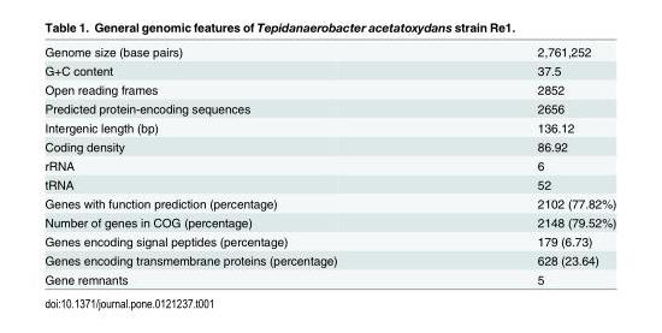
<table><tbody><tr><td>Genome size (base pairs)</td><td>2,761,252</td></tr><tr><td>G+C content</td><td>37.5</td></tr><tr><td>Open reading frames</td><td>2852</td></tr><tr><td>Predicted protein-encoding sequences</td><td>2656</td></tr><tr><td>Intergenic length (bp)</td><td>136.12</td></tr><tr><td>Coding density</td><td>86.92</td></tr><tr><td>rRNA</td><td>6</td></tr><tr><td>tRNA</td><td>52</td></tr><tr><td>Genes with function prediction (percentage)</td><td>2102 (77.82%)</td></tr><tr><td>Number of genes in COG (percentage)</td><td>2148 (79.52%)</td></tr><tr><td>Genes encoding signal peptides (percentage)</td><td>179 (6.73)</td></tr><tr><td>Genes encoding transmembrane proteins (percentage)</td><td>628 (23.64)</td></tr><tr><td>Gene remnants</td><td>5</td></tr></tbody></table>